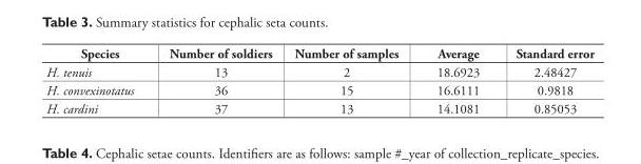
<table><thead><tr><td>Species</td><td>Number of soldiers</td><td>Number of samples</td><td>Average</td><td>Standard error</td></tr></thead><tbody><tr><td>H. tenuis</td><td>13</td><td>2</td><td>18.6923</td><td>2.48427</td></tr><tr><td>H. convexinotatus</td><td>36</td><td>15</td><td>16.6111</td><td>0.9818</td></tr><tr><td>H. cardini</td><td>37</td><td>13</td><td>14.1081</td><td>0.85053</td></tr></tbody></table>